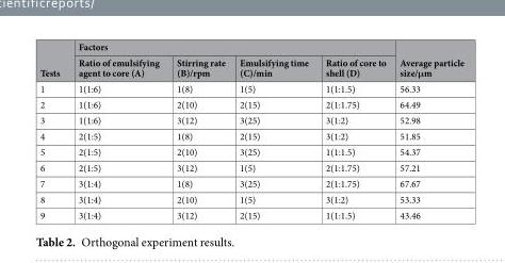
<table><thead><tr><td rowspan="2">Tests</td><td colspan="4">Factors</td><td rowspan="2">Average particle size/μm</td></tr><tr><td>Ratio of emulsifying agent to core (A)</td><td>Stirring rate (B)/rpm</td><td>Emulsifying time (C)/min</td><td>Ratio of core to shell (D)</td></tr></thead><tbody><tr><td>1</td><td>1(1:6)</td><td>1(8)</td><td>1(5)</td><td>1(1:1.5)</td><td>56.33</td></tr><tr><td>2</td><td>1(1:6)</td><td>2(10)</td><td>2(15)</td><td>2(1:1.75)</td><td>64.49</td></tr><tr><td>3</td><td>1(1:6)</td><td>3(12)</td><td>3(25)</td><td>3(1:2)</td><td>52.98</td></tr><tr><td>4</td><td>2(1:5)</td><td>1(8)</td><td>2(15)</td><td>3(1:2)</td><td>51.85</td></tr><tr><td>5</td><td>2(1:5)</td><td>2(10)</td><td>3(25)</td><td>1(1:1.5)</td><td>54.37</td></tr><tr><td>6</td><td>2(1:5)</td><td>3(12)</td><td>1(5)</td><td>2(1:1.75)</td><td>57.21</td></tr><tr><td>7</td><td>3(1:4)</td><td>1(8)</td><td>3(25)</td><td>2(1:1.75)</td><td>67.67</td></tr><tr><td>8</td><td>3(1:4)</td><td>2(10)</td><td>1(5)</td><td>3(1:2)</td><td>53.33</td></tr><tr><td>9</td><td>3(1:4)</td><td>3(12)</td><td>2(15)</td><td>1(1:1.5)</td><td>43.46</td></tr></tbody></table>